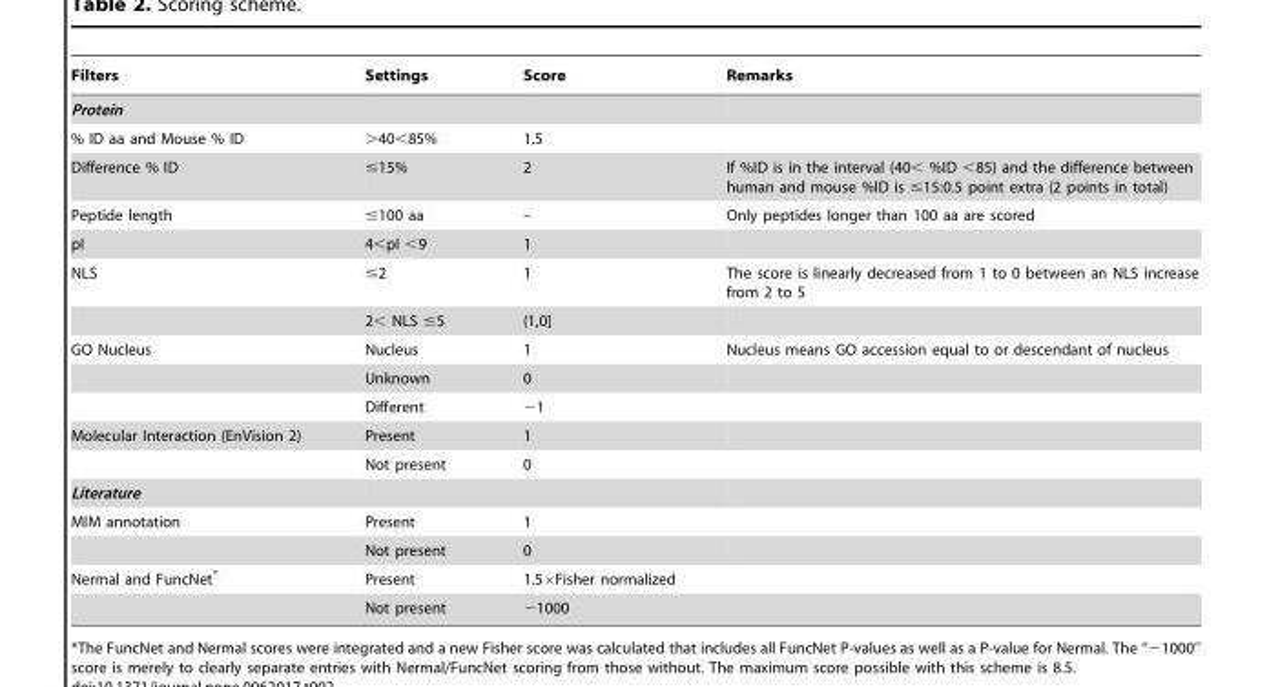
<table><thead><tr><td>Filters</td><td>Settings</td><td>Score</td><td>Remarks</td></tr></thead><tbody><tr><td colspan="4">Protein</td></tr><tr><td>% ID aa and Mouse % ID</td><td>&gt;40&lt;85%</td><td>1.5</td><td></td></tr><tr><td>Difference % ID</td><td>≤15%</td><td>2</td><td>If %ID is in the interval (40&lt; %ID &lt;85) and the difference between human and mouse %ID is ≤15:0.5 point extra (2 points in total)</td></tr><tr><td>Peptide length</td><td>≤100 aa</td><td>–</td><td>Only peptides longer than 100 aa are scored</td></tr><tr><td>pI</td><td>4&lt;pI &lt;9</td><td>1</td><td></td></tr><tr><td rowspan="2">NLS</td><td>≤2</td><td>1</td><td>The score is linearly decreased from 1 to 0 between an NLS increase from 2 to 5</td></tr><tr><td>2&lt; NLS ≤5</td><td>(1,0]</td><td></td></tr><tr><td rowspan="3">GO Nucleus</td><td>Nucleus</td><td>1</td><td>Nucleus means GO accession equal to or descendant of nucleus</td></tr><tr><td>Unknown</td><td>0</td><td></td></tr><tr><td>Different</td><td>−1</td><td></td></tr><tr><td rowspan="2">Molecular Interaction (EnVision 2)</td><td>Present</td><td>1</td><td></td></tr><tr><td>Not present</td><td>0</td><td></td></tr><tr><td colspan="4">Literature</td></tr><tr><td rowspan="2">MIM annotation</td><td>Present</td><td>1</td><td></td></tr><tr><td>Not present</td><td>0</td><td></td></tr><tr><td rowspan="2">Nermal and FuncNet*</td><td>Present</td><td colspan="2">1.5×Fisher normalized</td></tr><tr><td>Not present</td><td colspan="2">−1000</td></tr></tbody></table>